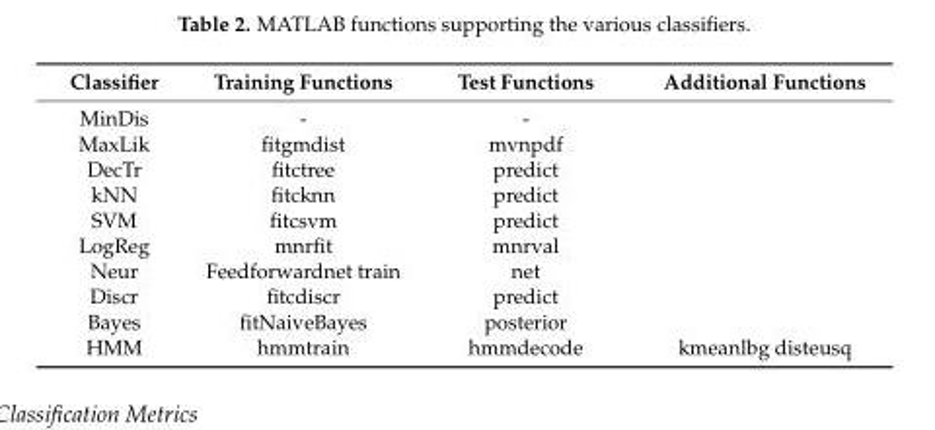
<table><thead><tr><td>Classifier</td><td>Training Functions</td><td>Test Functions</td><td>Additional Functions</td></tr></thead><tbody><tr><td>MinDis</td><td>-</td><td>-</td><td></td></tr><tr><td>MaxLik</td><td>fitgmdist</td><td>mvnpdf</td><td></td></tr><tr><td>DecTr</td><td>fitctree</td><td>predict</td><td></td></tr><tr><td>kNN</td><td>fitcknn</td><td>predict</td><td></td></tr><tr><td>SVM</td><td>fitcsvm</td><td>predict</td><td></td></tr><tr><td>LogReg</td><td>mnrfit</td><td>mnrval</td><td></td></tr><tr><td>Neur</td><td>Feedforwardnet train</td><td>net</td><td></td></tr><tr><td>Discr</td><td>fitcdiscr</td><td>predict</td><td></td></tr><tr><td>Bayes</td><td>fitNaiveBayes</td><td>posterior</td><td></td></tr><tr><td>HMM</td><td>hmmtrain</td><td>hmmdecode</td><td>kmeanlbg disteusq</td></tr></tbody></table>